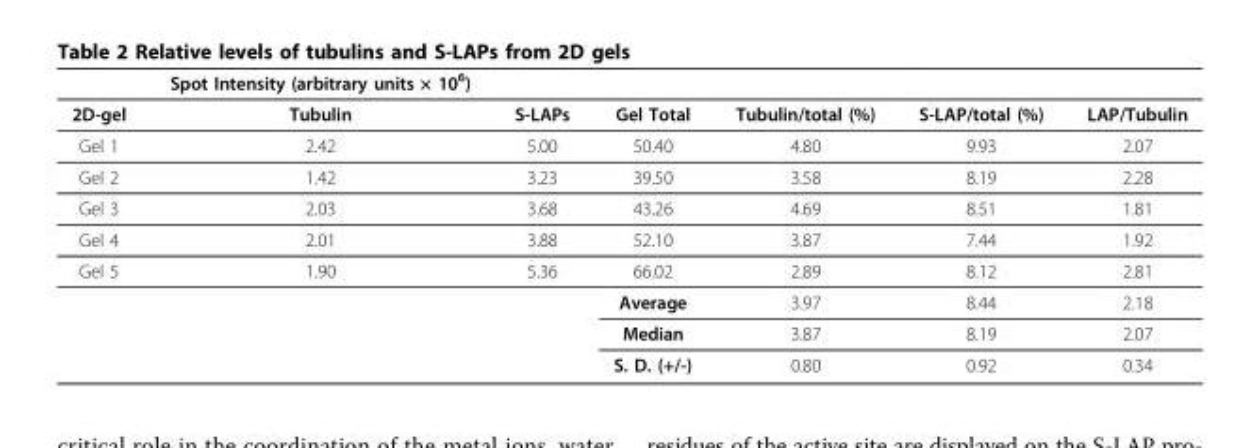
<table><thead><tr><td></td><td>Spot Intensity (arbitrary units × 10<sup>6</sup>)</td><td></td><td></td><td></td><td></td><td></td></tr></thead><tbody><tr><td>2D-gel</td><td>Tubulin</td><td>S-LAPs</td><td>Gel Total</td><td>Tubulin/total (%)</td><td>S-LAP/total (%)</td><td>LAP/Tubulin</td></tr><tr><td>Gel 1</td><td>2.42</td><td>5.00</td><td>50.40</td><td>4.80</td><td>9.93</td><td>2.07</td></tr><tr><td>Gel 2</td><td>1.42</td><td>3.23</td><td>39.50</td><td>3.58</td><td>8.19</td><td>2.28</td></tr><tr><td>Gel 3</td><td>2.03</td><td>3.68</td><td>43.26</td><td>4.69</td><td>8.51</td><td>1.81</td></tr><tr><td>Gel 4</td><td>2.01</td><td>3.88</td><td>52.10</td><td>3.87</td><td>7.44</td><td>1.92</td></tr><tr><td rowspan="4">Gel 5</td><td>1.90</td><td>5.36</td><td>66.02</td><td>2.89</td><td>8.12</td><td>2.81</td></tr><tr><td></td><td></td><td>Average</td><td>3.97</td><td>8.44</td><td>2.18</td></tr><tr><td></td><td></td><td>Median</td><td>3.87</td><td>8.19</td><td>2.07</td></tr><tr><td></td><td></td><td>S. D. (+/-)</td><td>0.80</td><td>0.92</td><td>0.34</td></tr></tbody></table>